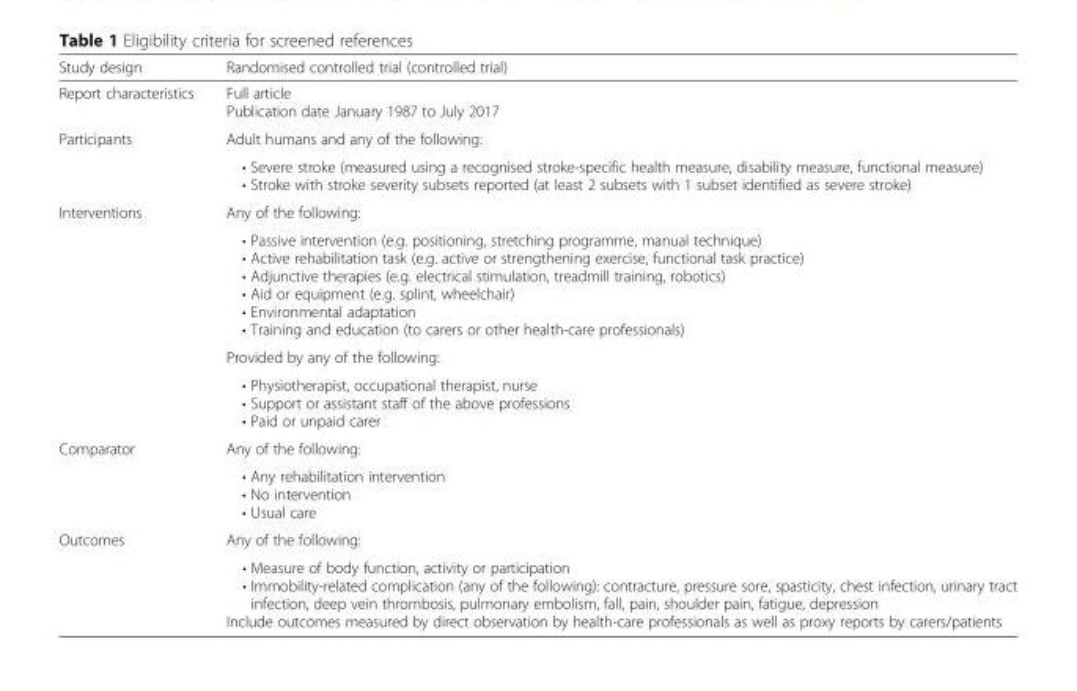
<table><thead><tr><td>Study design</td><td>Randomised controlled trial (controlled trial)</td></tr></thead><tbody><tr><td>Report characteristics</td><td>Full article Publication date January 1987 to July 2017</td></tr><tr><td rowspan="2">Participants</td><td>Adult humans and any of the following:</td></tr><tr><td>• Severe stroke (measured using a recognised stroke-specific health measure, disability measure, functional measure) • Stroke with stroke severity subsets reported (at least 2 subsets with 1 subset identified as severe stroke)</td></tr><tr><td rowspan="4">Interventions</td><td>Any of the following:</td></tr><tr><td>• Passive intervention (e.g. positioning, stretching programme, manual technique) • Active rehabilitation task (e.g. active or strengthening exercise, functional task practice) • Adjunctive therapies (e.g. electrical stimulation, treadmill training, robotics) • Aid or equipment (e.g. splint, wheelchair) • Environmental adaptation • Training and education (to carers or other health-care professionals)</td></tr><tr><td>Provided by any of the following:</td></tr><tr><td>• Physiotherapist, occupational therapist, nurse • Support or assistant staff of the above professions • Paid or unpaid carer</td></tr><tr><td rowspan="2">Comparator</td><td>Any of the following:</td></tr><tr><td>• Any rehabilitation intervention • No intervention • Usual care</td></tr><tr><td rowspan="2">Outcomes</td><td>Any of the following:</td></tr><tr><td>• Measure of body function, activity or participation • Immobility-related complication (any of the following): contracture, pressure sore, spasticity, chest infection, urinary tract infection, deep vein thrombosis, pulmonary embolism, fall, pain, shoulder pain, fatigue, depression Include outcomes measured by direct observation by health-care professionals as well as proxy reports by carers/patients</td></tr></tbody></table>